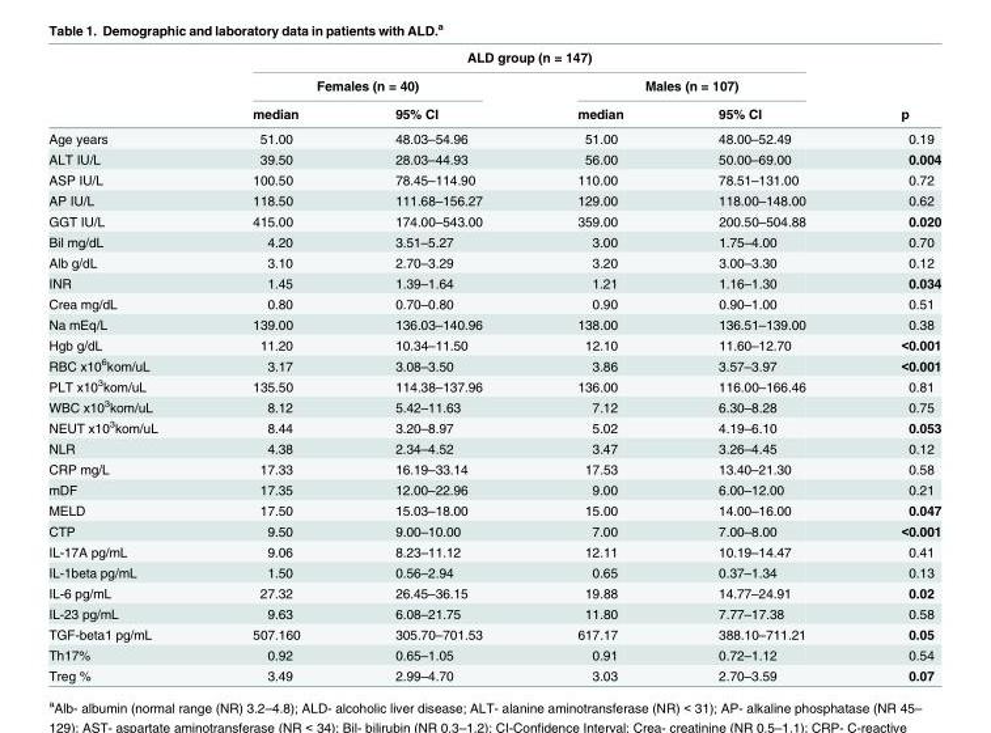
<table><thead><tr><td rowspan="3"></td><td colspan="4">ALD group (n = 147)</td><td rowspan="3">p</td></tr><tr><td colspan="2">Females (n = 40)</td><td colspan="2">Males (n = 107)</td></tr><tr><td>median</td><td>95% CI</td><td>median</td><td>95% CI</td></tr></thead><tbody><tr><td>Age years</td><td>51.00</td><td>48.03–54.96</td><td>51.00</td><td>48.00–52.49</td><td>0.19</td></tr><tr><td>ALT IU/L</td><td>39.50</td><td>28.03–44.93</td><td>56.00</td><td>50.00–69.00</td><td>0.004</td></tr><tr><td>ASP IU/L</td><td>100.50</td><td>78.45–114.90</td><td>110.00</td><td>78.51–131.00</td><td>0.72</td></tr><tr><td>AP IU/L</td><td>118.50</td><td>111.68–156.27</td><td>129.00</td><td>118.00–148.00</td><td>0.62</td></tr><tr><td>GGT IU/L</td><td>415.00</td><td>174.00–543.00</td><td>359.00</td><td>200.50–504.88</td><td>0.020</td></tr><tr><td>Bil mg/dL</td><td>4.20</td><td>3.51–5.27</td><td>3.00</td><td>1.75–4.00</td><td>0.70</td></tr><tr><td>Alb g/dL</td><td>3.10</td><td>2.70–3.29</td><td>3.20</td><td>3.00–3.30</td><td>0.12</td></tr><tr><td>INR</td><td>1.45</td><td>1.39–1.64</td><td>1.21</td><td>1.16–1.30</td><td>0.034</td></tr><tr><td>Crea mg/dL</td><td>0.80</td><td>0.70–0.80</td><td>0.90</td><td>0.90–1.00</td><td>0.51</td></tr><tr><td>Na mEq/L</td><td>139.00</td><td>136.03–140.96</td><td>138.00</td><td>136.51–139.00</td><td>0.38</td></tr><tr><td>Hgb g/dL</td><td>11.20</td><td>10.34–11.50</td><td>12.10</td><td>11.60–12.70</td><td>&lt;0.001</td></tr><tr><td>RBC x10<sup>6</sup>kom/uL</td><td>3.17</td><td>3.08–3.50</td><td>3.86</td><td>3.57–3.97</td><td>&lt;0.001</td></tr><tr><td>PLT x10<sup>3</sup>kom/uL</td><td>135.50</td><td>114.38–137.96</td><td>136.00</td><td>116.00–166.46</td><td>0.81</td></tr><tr><td>WBC x10<sup>3</sup>kom/uL</td><td>8.12</td><td>5.42–11.63</td><td>7.12</td><td>6.30–8.28</td><td>0.75</td></tr><tr><td>NEUT x10<sup>3</sup>kom/uL</td><td>8.44</td><td>3.20–8.97</td><td>5.02</td><td>4.19–6.10</td><td>0.053</td></tr><tr><td>NLR</td><td>4.38</td><td>2.34–4.52</td><td>3.47</td><td>3.26–4.45</td><td>0.12</td></tr><tr><td>CRP mg/L</td><td>17.33</td><td>16.19–33.14</td><td>17.53</td><td>13.40–21.30</td><td>0.58</td></tr><tr><td>mDF</td><td>17.35</td><td>12.00–22.96</td><td>9.00</td><td>6.00–12.00</td><td>0.21</td></tr><tr><td>MELD</td><td>17.50</td><td>15.03–18.00</td><td>15.00</td><td>14.00–16.00</td><td>0.047</td></tr><tr><td>CTP</td><td>9.50</td><td>9.00–10.00</td><td>7.00</td><td>7.00–8.00</td><td>&lt;0.001</td></tr><tr><td>IL-17A pg/mL</td><td>9.06</td><td>8.23–11.12</td><td>12.11</td><td>10.19–14.47</td><td>0.41</td></tr><tr><td>IL-1beta pg/mL</td><td>1.50</td><td>0.56–2.94</td><td>0.65</td><td>0.37–1.34</td><td>0.13</td></tr><tr><td>IL-6 pg/mL</td><td>27.32</td><td>26.45–36.15</td><td>19.88</td><td>14.77–24.91</td><td>0.02</td></tr><tr><td>IL-23 pg/mL</td><td>9.63</td><td>6.08–21.75</td><td>11.80</td><td>7.77–17.38</td><td>0.58</td></tr><tr><td>TGF-beta1 pg/mL</td><td>507.160</td><td>305.70–701.53</td><td>617.17</td><td>388.10–711.21</td><td>0.05</td></tr><tr><td>Th17%</td><td>0.92</td><td>0.65–1.05</td><td>0.91</td><td>0.72–1.12</td><td>0.54</td></tr><tr><td>Treg %</td><td>3.49</td><td>2.99–4.70</td><td>3.03</td><td>2.70–3.59</td><td>0.07</td></tr></tbody></table>